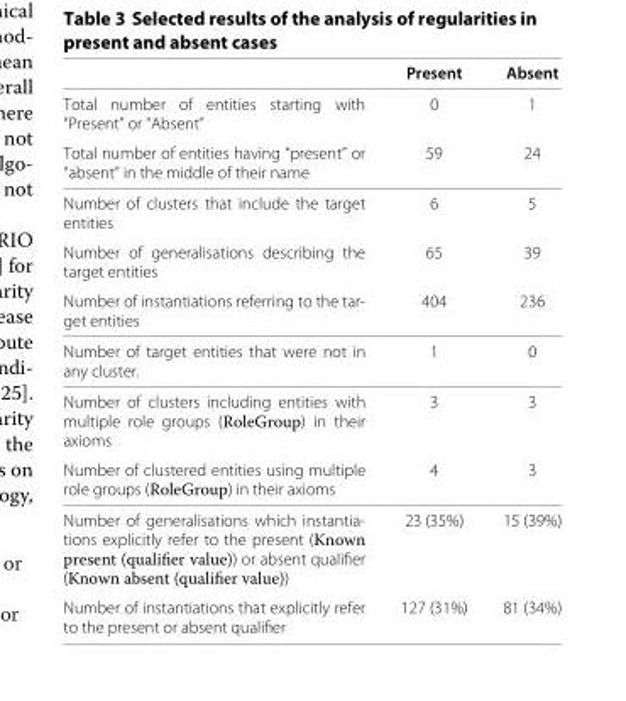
<table><thead><tr><td></td><td>Present</td><td>Absent</td></tr></thead><tbody><tr><td>Total number of entities starting with “Present” or “Absent”</td><td>0</td><td>1</td></tr><tr><td>Total number of entities having “present” or “absent” in the middle of their name</td><td>59</td><td>24</td></tr><tr><td>Number of clusters that include the target entities</td><td>6</td><td>5</td></tr><tr><td>Number of generalisations describing the target entities</td><td>65</td><td>39</td></tr><tr><td>Number of instantiations referring to the tar- get entities</td><td>404</td><td>236</td></tr><tr><td>Number of target entities that were not in any cluster.</td><td>1</td><td>0</td></tr><tr><td>Number of clusters including entities with multiple role groups (RoleGroup) in their axioms</td><td>3</td><td>3</td></tr><tr><td>Number of clustered entities using multiple role groups (RoleGroup) in their axioms</td><td>4</td><td>3</td></tr><tr><td>Number of generalisations which instantia- tions explicitly refer to the present (Known present (qualifier value)) or absent qualifier (Known absent (qualifier value))</td><td>23 (35%)</td><td>15 (39%)</td></tr><tr><td>Number of instantiations that explicitly refer to the present or absent qualifier</td><td>127 (31%)</td><td>81 (34%)</td></tr></tbody></table>